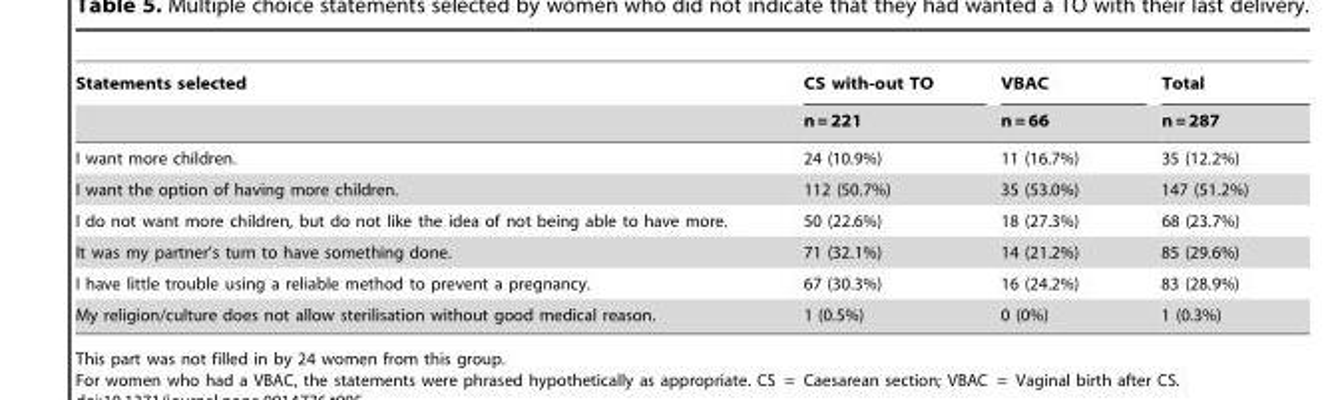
<table><thead><tr><td rowspan="2">Statements selected</td><td rowspan="2">CS with-out TO n = 221</td><td rowspan="2">VBAC n = 66</td><td rowspan="2">Total n = 287</td></tr><tr></tr></thead><tbody><tr><td>I want more children.</td><td>24 (10.9%)</td><td>11 (16.7%)</td><td>35 (12.2%)</td></tr><tr><td>I want the option of having more children.</td><td>112 (50.7%)</td><td>35 (53.0%)</td><td>147 (51.2%)</td></tr><tr><td>I do not want more children, but do not like the idea of not being able to have more.</td><td>50 (22.6%)</td><td>18 (27.3%)</td><td>68 (23.7%)</td></tr><tr><td>It was my partner’s turn to have something done.</td><td>71 (32.1%)</td><td>14 (21.2%)</td><td>85 (29.6%)</td></tr><tr><td>I have little trouble using a reliable method to prevent a pregnancy.</td><td>67 (30.3%)</td><td>16 (24.2%)</td><td>83 (28.9%)</td></tr><tr><td>My religion/culture does not allow sterilisation without good medical reason.</td><td>1 (0.5%)</td><td>0 (0%)</td><td>1 (0.3%)</td></tr></tbody></table>